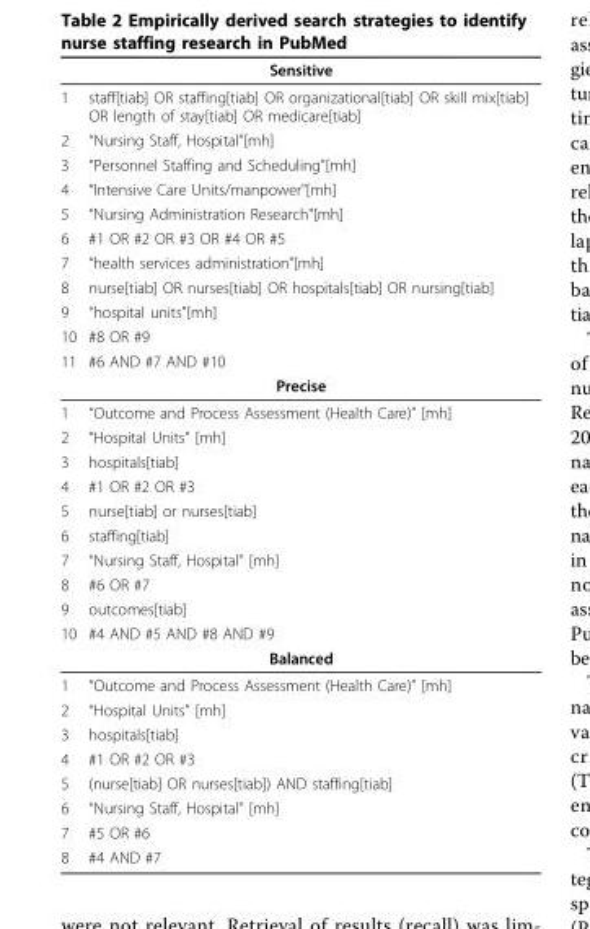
<table><thead><tr><td colspan="2">Sensitive</td></tr><tr><td>1</td><td>staff[tiab] OR staffing[tiab] OR organizational[tiab] OR skill mix[tiab] OR length of stay[tiab] OR medicare[tiab]</td></tr></thead><tbody><tr><td>2</td><td>“Nursing Staff, Hospital&quot;[mh]</td></tr><tr><td>3</td><td>“Personnel Staffing and Scheduling&quot;[mh]</td></tr><tr><td>4</td><td>“Intensive Care Units/manpower&quot;[mh]</td></tr><tr><td>5</td><td>“Nursing Administration Research&quot;[mh]</td></tr><tr><td>6</td><td>#1 OR #2 OR #3 OR #4 OR #5</td></tr><tr><td>7</td><td>“health services administration&quot;[mh]</td></tr><tr><td>8</td><td>nurse[tiab] OR nurses[tiab] OR hospitals[tiab] OR nursing[tiab]</td></tr><tr><td>9</td><td>“hospital units&quot;[mh]</td></tr><tr><td>10</td><td>#8 OR #9</td></tr><tr><td>11</td><td>#6 AND #7 AND #10</td></tr><tr><td colspan="2">Precise</td></tr><tr><td>1</td><td>“Outcome and Process Assessment (Health Care)” [mh]</td></tr><tr><td>2</td><td>“Hospital Units” [mh]</td></tr><tr><td>3</td><td>hospitals[tiab]</td></tr><tr><td>4</td><td>#1 OR #2 OR #3</td></tr><tr><td>5</td><td>nurse[tiab] or nurses[tiab]</td></tr><tr><td>6</td><td>staffing[tiab]</td></tr><tr><td>7</td><td>“Nursing Staff, Hospital” [mh]</td></tr><tr><td>8</td><td>#6 OR #7</td></tr><tr><td>9</td><td>outcomes[tiab]</td></tr><tr><td>10</td><td>#4 AND #5 AND #8 AND #9</td></tr><tr><td colspan="2">Balanced</td></tr><tr><td>1</td><td>“Outcome and Process Assessment (Health Care)” [mh]</td></tr><tr><td>2</td><td>“Hospital Units” [mh]</td></tr><tr><td>3</td><td>hospitals[tiab]</td></tr><tr><td>4</td><td>#1 OR #2 OR #3</td></tr><tr><td>5</td><td>(nurse[tiab] OR nurses[tiab]) AND staffing[tiab]</td></tr><tr><td>6</td><td>“Nursing Staff, Hospital” [mh]</td></tr><tr><td>7</td><td>#5 OR #6</td></tr><tr><td>8</td><td>#4 AND #7</td></tr></tbody></table>